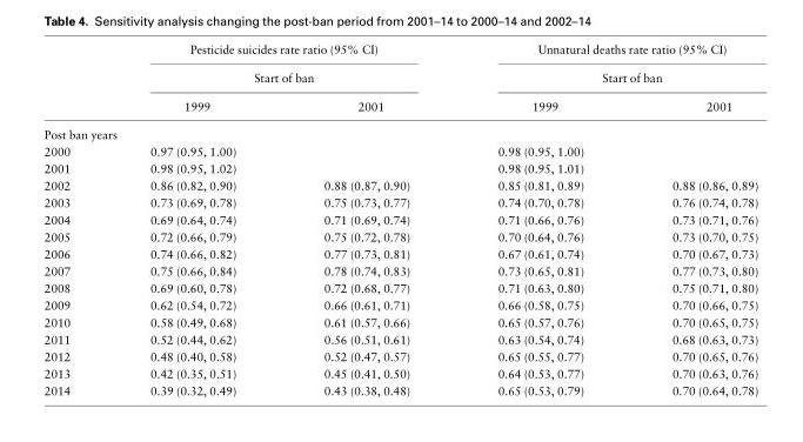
<table><thead><tr><td rowspan="3"></td><td rowspan="2" colspan="2">Pesticide suicides rate ratio (95% CI) Start of ban</td><td rowspan="2" colspan="2">Unnatural deaths rate ratio (95% CI) Start of ban</td></tr><tr></tr><tr><td>1999</td><td>2001</td><td>1999</td><td>2001</td></tr></thead><tbody><tr><td colspan="5">Post ban years</td></tr><tr><td>2000</td><td>0.97 (0.95, 1.00)</td><td></td><td>0.98 (0.95, 1.00)</td><td></td></tr><tr><td>2001</td><td>0.98 (0.95, 1.02)</td><td></td><td>0.98 (0.95, 1.01)</td><td></td></tr><tr><td>2002</td><td>0.86 (0.82, 0.90)</td><td>0.88 (0.87, 0.90)</td><td>0.85 (0.81, 0.89)</td><td>0.88 (0.86, 0.89)</td></tr><tr><td>2003</td><td>0.73 (0.69, 0.78)</td><td>0.75 (0.73, 0.77)</td><td>0.74 (0.70, 0.78)</td><td>0.76 (0.74, 0.78)</td></tr><tr><td>2004</td><td>0.69 (0.64, 0.74)</td><td>0.71 (0.69, 0.74)</td><td>0.71 (0.66, 0.76)</td><td>0.73 (0.71, 0.76)</td></tr><tr><td>2005</td><td>0.72 (0.66, 0.79)</td><td>0.75 (0.72, 0.78)</td><td>0.70 (0.64, 0.76)</td><td>0.73 (0.70, 0.75)</td></tr><tr><td>2006</td><td>0.74 (0.66, 0.82)</td><td>0.77 (0.73, 0.81)</td><td>0.67 (0.61, 0.74)</td><td>0.70 (0.67, 0.73)</td></tr><tr><td>2007</td><td>0.75 (0.66, 0.84)</td><td>0.78 (0.74, 0.83)</td><td>0.73 (0.65, 0.81)</td><td>0.77 (0.73, 0.80)</td></tr><tr><td>2008</td><td>0.69 (0.60, 0.78)</td><td>0.72 (0.68, 0.77)</td><td>0.71 (0.63, 0.80)</td><td>0.75 (0.71, 0.80)</td></tr><tr><td>2009</td><td>0.62 (0.54, 0.72)</td><td>0.66 (0.61, 0.71)</td><td>0.66 (0.58, 0.75)</td><td>0.70 (0.66, 0.75)</td></tr><tr><td>2010</td><td>0.58 (0.49, 0.68)</td><td>0.61 (0.57, 0.66)</td><td>0.65 (0.57, 0.76)</td><td>0.70 (0.65, 0.75)</td></tr><tr><td>2011</td><td>0.52 (0.44, 0.62)</td><td>0.56 (0.51, 0.61)</td><td>0.63 (0.54, 0.74)</td><td>0.68 (0.63, 0.73)</td></tr><tr><td>2012</td><td>0.48 (0.40, 0.58)</td><td>0.52 (0.47, 0.57)</td><td>0.65 (0.55, 0.77)</td><td>0.70 (0.65, 0.76)</td></tr><tr><td>2013</td><td>0.42 (0.35, 0.51)</td><td>0.45 (0.41, 0.50)</td><td>0.64 (0.53, 0.77)</td><td>0.70 (0.63, 0.76)</td></tr><tr><td>2014</td><td>0.39 (0.32, 0.49)</td><td>0.43 (0.38, 0.48)</td><td>0.65 (0.53, 0.79)</td><td>0.70 (0.64, 0.78)</td></tr></tbody></table>